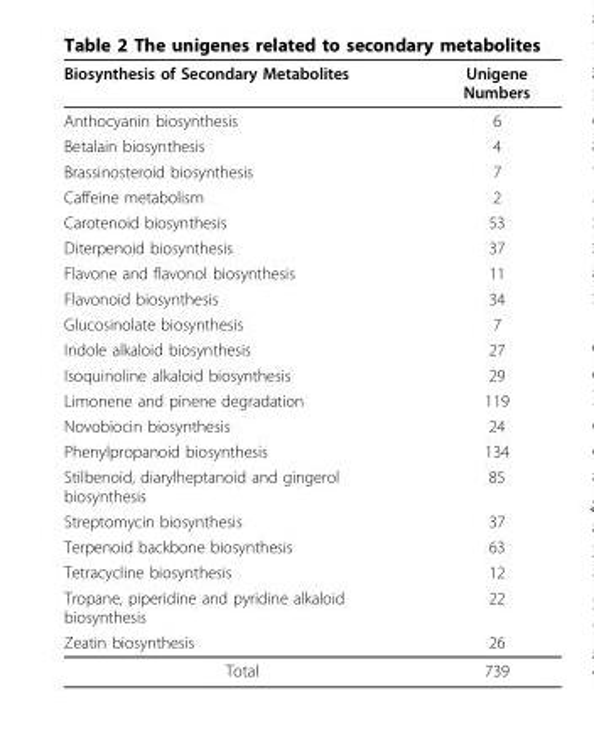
<table><thead><tr><td>Biosynthesis of Secondary Metabolites</td><td>Unigene Numbers</td></tr></thead><tbody><tr><td>Anthocyanin biosynthesis</td><td>6</td></tr><tr><td>Betalain biosynthesis</td><td>4</td></tr><tr><td>Brassinosteroid biosynthesis</td><td>7</td></tr><tr><td>Caffeine metabolism</td><td>2</td></tr><tr><td>Carotenoid biosynthesis</td><td>53</td></tr><tr><td>Diterpenoid biosynthesis</td><td>37</td></tr><tr><td>Flavone and flavonol biosynthesis</td><td>11</td></tr><tr><td>Flavonoid biosynthesis</td><td>34</td></tr><tr><td>Glucosinolate biosynthesis</td><td>7</td></tr><tr><td>Indole alkaloid biosynthesis</td><td>27</td></tr><tr><td>Isoquinoline alkaloid biosynthesis</td><td>29</td></tr><tr><td>Limonene and pinene degradation</td><td>119</td></tr><tr><td>Novobiocin biosynthesis</td><td>24</td></tr><tr><td>Phenylpropanoid biosynthesis</td><td>134</td></tr><tr><td>Stilbenoid, diarylheptanoid and gingerol biosynthesis</td><td>85</td></tr><tr><td>Streptomycin biosynthesis</td><td>37</td></tr><tr><td>Terpenoid backbone biosynthesis</td><td>63</td></tr><tr><td>Tetracycline biosynthesis</td><td>12</td></tr><tr><td>Tropane, piperidine and pyridine alkaloid biosynthesis</td><td>22</td></tr><tr><td>Zeatin biosynthesis</td><td>26</td></tr><tr><td>Total</td><td>739</td></tr></tbody></table>